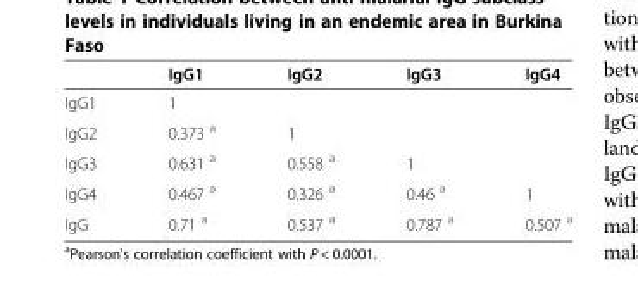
<table><thead><tr><td></td><td>IgG1</td><td>IgG2</td><td>IgG3</td><td>IgG4</td></tr></thead><tbody><tr><td>IgG1</td><td>1</td><td></td><td></td><td></td></tr><tr><td>IgG2</td><td>0.373 <sup>a</sup></td><td>1</td><td></td><td></td></tr><tr><td>IgG3</td><td>0.631 <sup>a</sup></td><td>0.558 <sup>a</sup></td><td>1</td><td></td></tr><tr><td>IgG4</td><td>0.467 <sup>a</sup></td><td>0.326 <sup>a</sup></td><td>0.46 <sup>a</sup></td><td>1</td></tr><tr><td>IgG</td><td>0.71 <sup>a</sup></td><td>0.537 <sup>a</sup></td><td>0.787 <sup>a</sup></td><td>0.507 <sup>a</sup></td></tr></tbody></table>